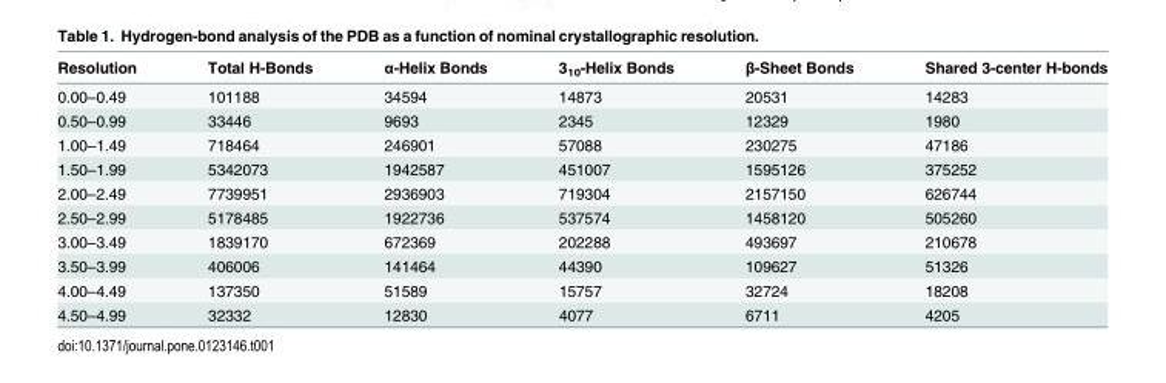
<table><thead><tr><td>Resolution</td><td>Total H-Bonds</td><td>α-Helix Bonds</td><td>3<sub>10</sub>-Helix Bonds</td><td>β-Sheet Bonds</td><td>Shared 3-center H-bonds</td></tr></thead><tbody><tr><td>0.00–0.49</td><td>101188</td><td>34594</td><td>14873</td><td>20531</td><td>14283</td></tr><tr><td>0.50–0.99</td><td>33446</td><td>9693</td><td>2345</td><td>12329</td><td>1980</td></tr><tr><td>1.00–1.49</td><td>718464</td><td>246901</td><td>57088</td><td>230275</td><td>47186</td></tr><tr><td>1.50–1.99</td><td>5342073</td><td>1942587</td><td>451007</td><td>1595126</td><td>375252</td></tr><tr><td>2.00–2.49</td><td>7739951</td><td>2936903</td><td>719304</td><td>2157150</td><td>626744</td></tr><tr><td>2.50–2.99</td><td>5178485</td><td>1922736</td><td>537574</td><td>1458120</td><td>505260</td></tr><tr><td>3.00–3.49</td><td>1839170</td><td>672369</td><td>202288</td><td>493697</td><td>210678</td></tr><tr><td>3.50–3.99</td><td>406006</td><td>141464</td><td>44390</td><td>109627</td><td>51326</td></tr><tr><td>4.00–4.49</td><td>137350</td><td>51589</td><td>15757</td><td>32724</td><td>18208</td></tr><tr><td>4.50–4.99</td><td>32332</td><td>12830</td><td>4077</td><td>6711</td><td>4205</td></tr></tbody></table>